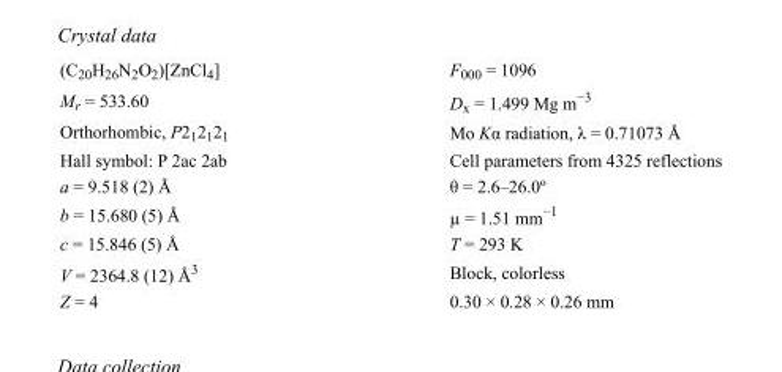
<table><tbody><tr><td>(C<sub>20</sub>H<sub>26</sub>N<sub>2</sub>O<sub>2</sub>)[ZnCl<sub>4</sub>]</td><td>F000 = 1096</td></tr><tr><td>M<sub>r</sub> = 533.60</td><td>D<sub>x</sub> = 1.499 Mg m<sup>−3</sup></td></tr><tr><td>Orthorhombic, P2<sub>1</sub>2<sub>1</sub>2<sub>1</sub></td><td>Mo Kα radiation, λ = 0.71073 Å</td></tr><tr><td>Hall symbol: P 2ac 2ab</td><td>Cell parameters from 4325 reflections</td></tr><tr><td>a = 9.518 (2) Å</td><td>θ = 2.6–26.0º</td></tr><tr><td>b = 15.680 (5) Å</td><td>µ = 1.51 mm<sup>−1</sup></td></tr><tr><td>c = 15.846 (5) Å</td><td>T = 293 K</td></tr><tr><td>V = 2364.8 (12) Å<sup>3</sup></td><td>Block, colorless</td></tr><tr><td>Z = 4</td><td>0.30 × 0.28 × 0.26 mm</td></tr></tbody></table>